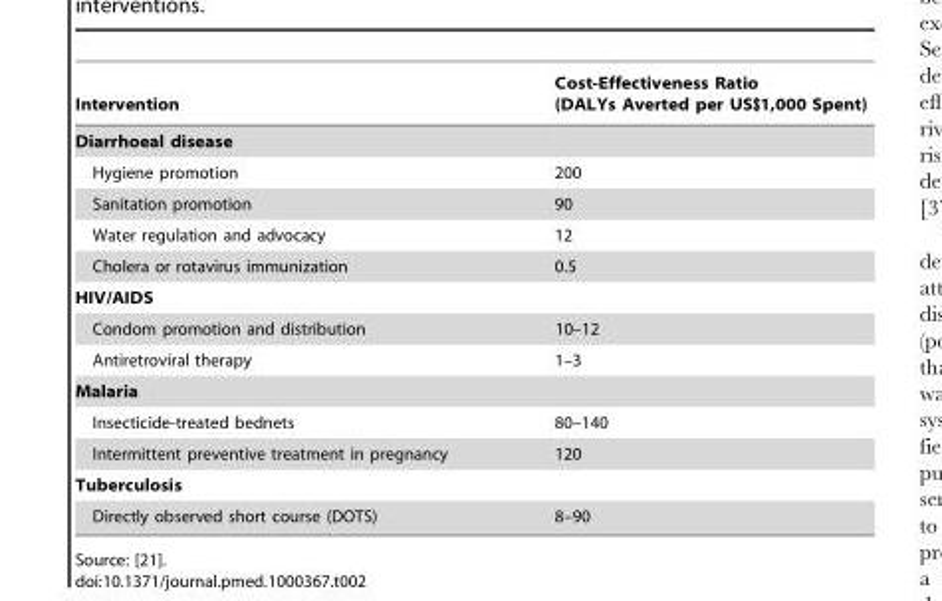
<table><thead><tr><td>Intervention</td><td>Cost-Effectiveness Ratio (DALYs Averted per US$1,000 Spent)</td></tr></thead><tbody><tr><td colspan="2">Diarrhoeal disease</td></tr><tr><td>Hygiene promotion</td><td>200</td></tr><tr><td>Sanitation promotion</td><td>90</td></tr><tr><td>Water regulation and advocacy</td><td>12</td></tr><tr><td>Cholera or rotavirus immunization</td><td>0.5</td></tr><tr><td colspan="2">HIV/AIDS</td></tr><tr><td>Condom promotion and distribution</td><td>10–12</td></tr><tr><td>Antiretroviral therapy</td><td>1–3</td></tr><tr><td colspan="2">Malaria</td></tr><tr><td>Insecticide-treated bednets</td><td>80–140</td></tr><tr><td>Intermittent preventive treatment in pregnancy</td><td>120</td></tr><tr><td colspan="2">Tuberculosis</td></tr><tr><td>Directly observed short course (DOTS)</td><td>8–90</td></tr></tbody></table>